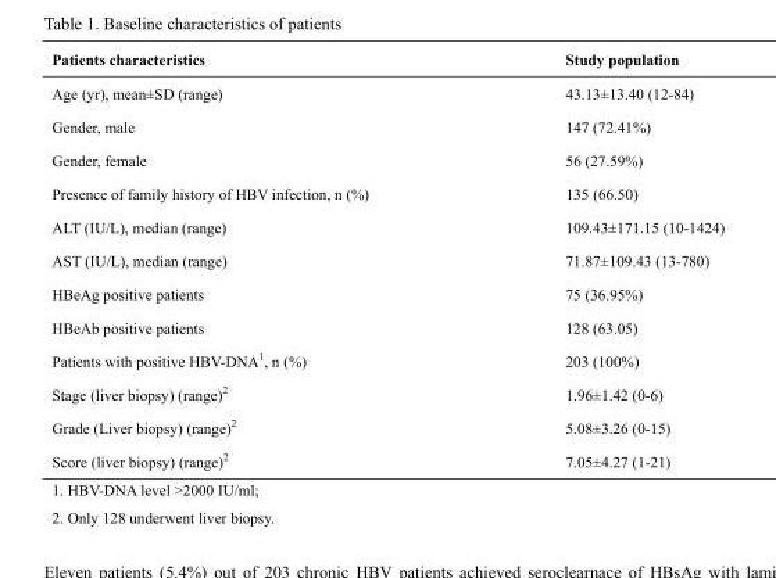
<table><thead><tr><td>Patients characteristics</td><td>Study population</td></tr></thead><tbody><tr><td>Age (yr), mean±SD (range)</td><td>43.13±13.40 (12-84)</td></tr><tr><td>Gender, male</td><td>147 (72.41%)</td></tr><tr><td>Gender, female</td><td>56 (27.59%)</td></tr><tr><td>Presence of family history of HBV infection, n (%)</td><td>135 (66.50)</td></tr><tr><td>ALT (IU/L), median (range)</td><td>109.43±171.15 (10-1424)</td></tr><tr><td>AST (IU/L), median (range)</td><td>71.87±109.43 (13-780)</td></tr><tr><td>HBeAg positive patients</td><td>75 (36.95%)</td></tr><tr><td>HBeAb positive patients</td><td>128 (63.05)</td></tr><tr><td>Patients with positive HBV-DNA<sup>1</sup>, n (%)</td><td>203 (100%)</td></tr><tr><td>Stage (liver biopsy) (range)<sup>2</sup></td><td>1.96±1.42 (0-6)</td></tr><tr><td>Grade (Liver biopsy) (range)<sup>2</sup></td><td>5.08±3.26 (0-15)</td></tr><tr><td>Score (liver biopsy) (range)<sup>2</sup></td><td>7.05±4.27 (1-21)</td></tr><tr><td>1. HBV-DNA level &gt;2000 IU/ml; 2. Only 128 underwent liver biopsy.</td><td></td></tr></tbody></table>